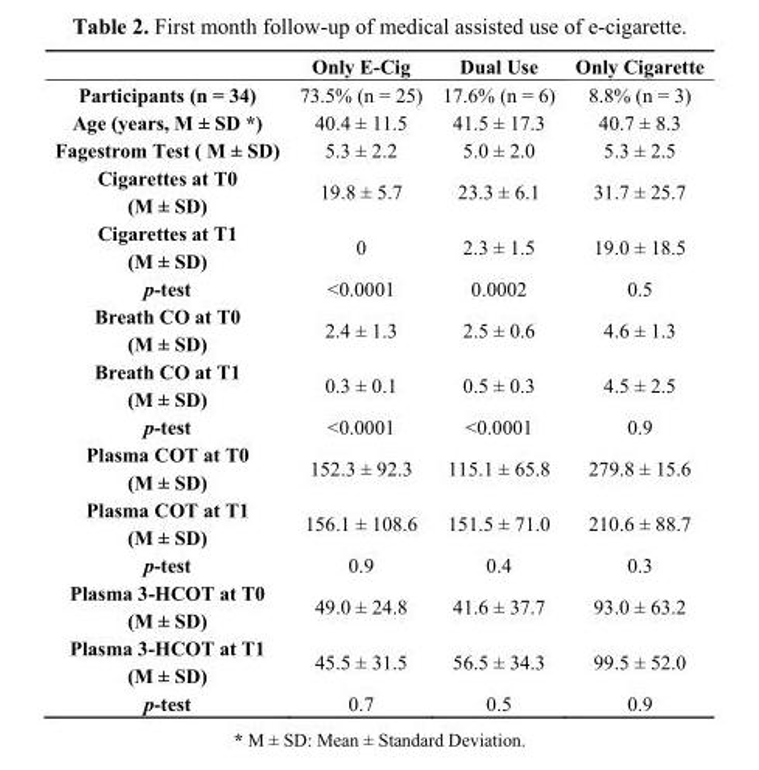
<table><thead><tr><td></td><td>Only E-Cig</td><td>Dual Use</td><td>Only Cigarette</td></tr></thead><tbody><tr><td>Participants (n = 34)</td><td>73.5% (n = 25)</td><td>17.6% (n = 6)</td><td>8.8% (n = 3)</td></tr><tr><td>Age (years, M ± SD *)</td><td>40.4 ± 11.5</td><td>41.5 ± 17.3</td><td>40.7 ± 8.3</td></tr><tr><td>Fagestrom Test ( M ± SD)</td><td>5.3 ± 2.2</td><td>5.0 ± 2.0</td><td>5.3 ± 2.5</td></tr><tr><td>Cigarettes at T0 (M ± SD)</td><td>19.8 ± 5.7</td><td>23.3 ± 6.1</td><td>31.7 ± 25.7</td></tr><tr><td>Cigarettes at T1 (M ± SD)</td><td>0</td><td>2.3 ± 1.5</td><td>19.0 ± 18.5</td></tr><tr><td>p-test</td><td>&lt;0.0001</td><td>0.0002</td><td>0.5</td></tr><tr><td>Breath CO at T0 (M ± SD)</td><td>2.4 ± 1.3</td><td>2.5 ± 0.6</td><td>4.6 ± 1.3</td></tr><tr><td>Breath CO at T1 (M ± SD)</td><td>0.3 ± 0.1</td><td>0.5 ± 0.3</td><td>4.5 ± 2.5</td></tr><tr><td>p-test</td><td>&lt;0.0001</td><td>&lt;0.0001</td><td>0.9</td></tr><tr><td>Plasma COT at T0 (M ± SD)</td><td>152.3 ± 92.3</td><td>115.1 ± 65.8</td><td>279.8 ± 15.6</td></tr><tr><td>Plasma COT at T1 (M ± SD)</td><td>156.1 ± 108.6</td><td>151.5 ± 71.0</td><td>210.6 ± 88.7</td></tr><tr><td>p-test</td><td>0.9</td><td>0.4</td><td>0.3</td></tr><tr><td>Plasma 3-HCOT at T0 (M ± SD)</td><td>49.0 ± 24.8</td><td>41.6 ± 37.7</td><td>93.0 ± 63.2</td></tr><tr><td>Plasma 3-HCOT at T1 (M ± SD)</td><td>45.5 ± 31.5</td><td>56.5 ± 34.3</td><td>99.5 ± 52.0</td></tr><tr><td>p-test</td><td>0.7</td><td>0.5</td><td>0.9</td></tr></tbody></table>